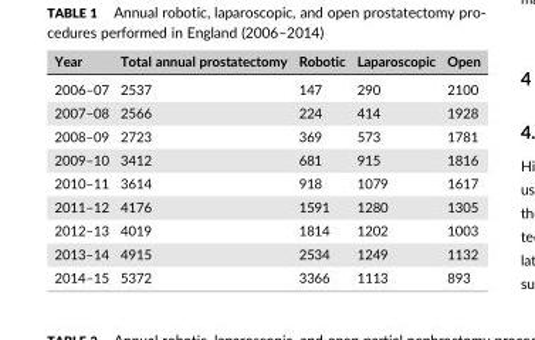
<table><thead><tr><td>Year</td><td>Total annual prostatectomy</td><td>Robotic</td><td>Laparoscopic</td><td>Open</td></tr></thead><tbody><tr><td>2006–07</td><td>2537</td><td>147</td><td>290</td><td>2100</td></tr><tr><td>2007–08</td><td>2566</td><td>224</td><td>414</td><td>1928</td></tr><tr><td>2008–09</td><td>2723</td><td>369</td><td>573</td><td>1781</td></tr><tr><td>2009–10</td><td>3412</td><td>681</td><td>915</td><td>1816</td></tr><tr><td>2010–11</td><td>3614</td><td>918</td><td>1079</td><td>1617</td></tr><tr><td>2011–12</td><td>4176</td><td>1591</td><td>1280</td><td>1305</td></tr><tr><td>2012–13</td><td>4019</td><td>1814</td><td>1202</td><td>1003</td></tr><tr><td>2013–14</td><td>4915</td><td>2534</td><td>1249</td><td>1132</td></tr><tr><td>2014–15</td><td>5372</td><td>3366</td><td>1113</td><td>893</td></tr></tbody></table>